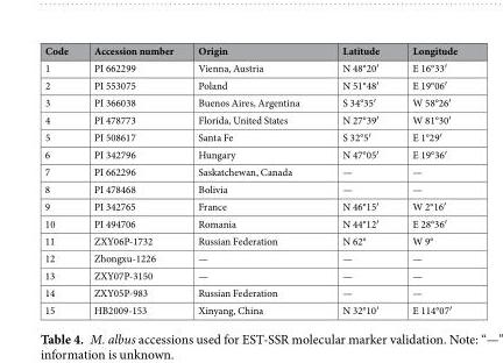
<table><thead><tr><td>Code</td><td>Accession number</td><td>Origin</td><td>Latitude</td><td>Longitude</td></tr></thead><tbody><tr><td>1</td><td>PI 662299</td><td>Vienna, Austria</td><td>N 48°20′</td><td>E 16°33′</td></tr><tr><td>2</td><td>PI 553075</td><td>Poland</td><td>N 51°48′</td><td>E 19°06′</td></tr><tr><td>3</td><td>PI 366038</td><td>Buenos Aires, Argentina</td><td>S 34°35′</td><td>W 58°26′</td></tr><tr><td>4</td><td>PI 478773</td><td>Florida, United States</td><td>N 27°39′</td><td>W 81°30′</td></tr><tr><td>5</td><td>PI 508617</td><td>Santa Fe</td><td>S 32°5′</td><td>E 1°29′</td></tr><tr><td>6</td><td>PI 342796</td><td>Hungary</td><td>N 47°05′</td><td>E 19°36′</td></tr><tr><td>7</td><td>PI 662296</td><td>Saskatchewan, Canada</td><td>—</td><td>—</td></tr><tr><td>8</td><td>PI 478468</td><td>Bolivia</td><td>—</td><td>—</td></tr><tr><td>9</td><td>PI 342765</td><td>France</td><td>N 46°15′</td><td>W 2°16′</td></tr><tr><td>10</td><td>PI 494706</td><td>Romania</td><td>N 44°12′</td><td>E 28°36′</td></tr><tr><td>11</td><td>ZXY06P-1732</td><td>Russian Federation</td><td>N 62°</td><td>W 9°</td></tr><tr><td>12</td><td>Zhongxu-1226</td><td>—</td><td>—</td><td>—</td></tr><tr><td>13</td><td>ZXY07P-3150</td><td>—</td><td>—</td><td>—</td></tr><tr><td>14</td><td>ZXY05P-983</td><td>Russian Federation</td><td>—</td><td>—</td></tr><tr><td>15</td><td>HB2009-153</td><td>Xinyang, China</td><td>N 32°10′</td><td>E 114°07′</td></tr></tbody></table>